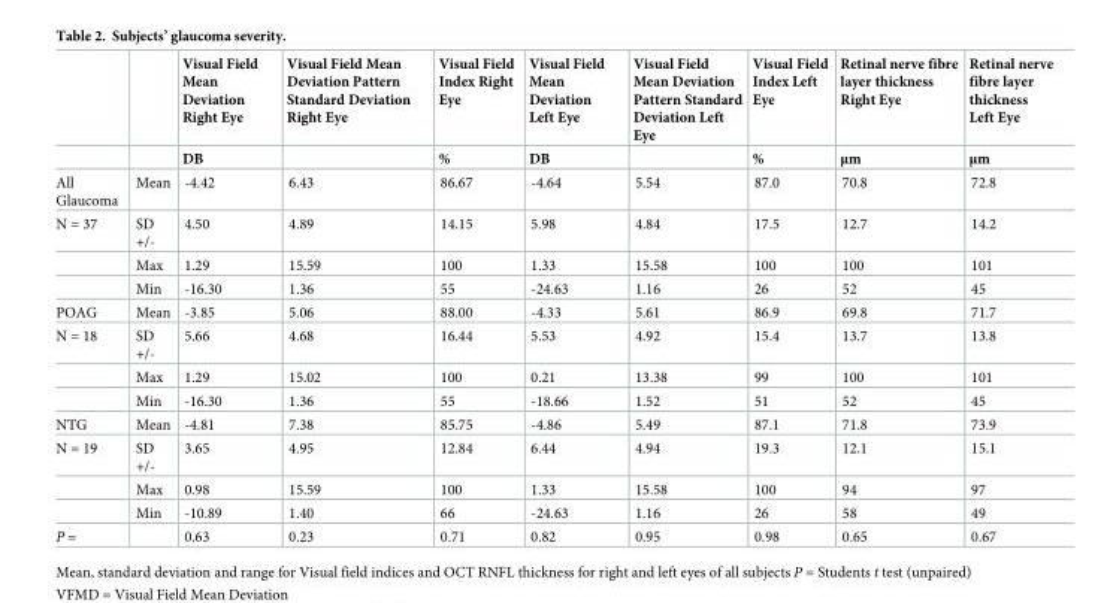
<table><thead><tr><td rowspan="2"></td><td rowspan="2"></td><td rowspan="2">Visual Field Mean Deviation Right Eye DB</td><td rowspan="2">Visual Field Mean Deviation Pattern Standard Deviation Right Eye</td><td rowspan="2">Visual Field Index Right Eye %</td><td rowspan="2">Visual Field Mean Deviation Left Eye DB</td><td rowspan="2">Visual Field Mean Deviation Pattern Standard Deviation Left Eye</td><td rowspan="2">Visual Field Index Left Eye %</td><td rowspan="2">Retinal nerve fibre layer thickness Right Eye μm</td><td rowspan="2">Retinal nerve fibre layer thickness Left Eye μm</td></tr><tr></tr></thead><tbody><tr><td>All Glaucoma</td><td>Mean</td><td>-4.42</td><td>6.43</td><td>86.67</td><td>-4.64</td><td>5.54</td><td>87.0</td><td>70.8</td><td>72.8</td></tr><tr><td rowspan="3">N = 37</td><td>SD +/-</td><td>4.50</td><td>4.89</td><td>14.15</td><td>5.98</td><td>4.84</td><td>17.5</td><td>12.7</td><td>14.2</td></tr><tr><td>Max</td><td>1.29</td><td>15.59</td><td>100</td><td>1.33</td><td>15.58</td><td>100</td><td>100</td><td>101</td></tr><tr><td>Min</td><td>-16.30</td><td>1.36</td><td>55</td><td>-24.63</td><td>1.16</td><td>26</td><td>52</td><td>45</td></tr><tr><td>POAG</td><td>Mean</td><td>-3.85</td><td>5.06</td><td>88.00</td><td>-4.33</td><td>5.61</td><td>86.9</td><td>69.8</td><td>71.7</td></tr><tr><td rowspan="3">N = 18</td><td>SD +/-</td><td>5.66</td><td>4.68</td><td>16.44</td><td>5.53</td><td>4.92</td><td>15.4</td><td>13.7</td><td>13.8</td></tr><tr><td>Max</td><td>1.29</td><td>15.02</td><td>100</td><td>0.21</td><td>13.38</td><td>99</td><td>100</td><td>101</td></tr><tr><td>Min</td><td>-16.30</td><td>1.36</td><td>55</td><td>-18.66</td><td>1.52</td><td>51</td><td>52</td><td>45</td></tr><tr><td>NTG</td><td>Mean</td><td>-4.81</td><td>7.38</td><td>85.75</td><td>-4.86</td><td>5.49</td><td>87.1</td><td>71.8</td><td>73.9</td></tr><tr><td rowspan="3">N = 19</td><td>SD +/-</td><td>3.65</td><td>4.95</td><td>12.84</td><td>6.44</td><td>4.94</td><td>19.3</td><td>12.1</td><td>15.1</td></tr><tr><td>Max</td><td>0.98</td><td>15.59</td><td>100</td><td>1.33</td><td>15.58</td><td>100</td><td>94</td><td>97</td></tr><tr><td>Min</td><td>-10.89</td><td>1.40</td><td>66</td><td>-24.63</td><td>1.16</td><td>26</td><td>58</td><td>49</td></tr><tr><td>P =</td><td></td><td>0.63</td><td>0.23</td><td>0.71</td><td>0.82</td><td>0.95</td><td>0.98</td><td>0.65</td><td>0.67</td></tr></tbody></table>